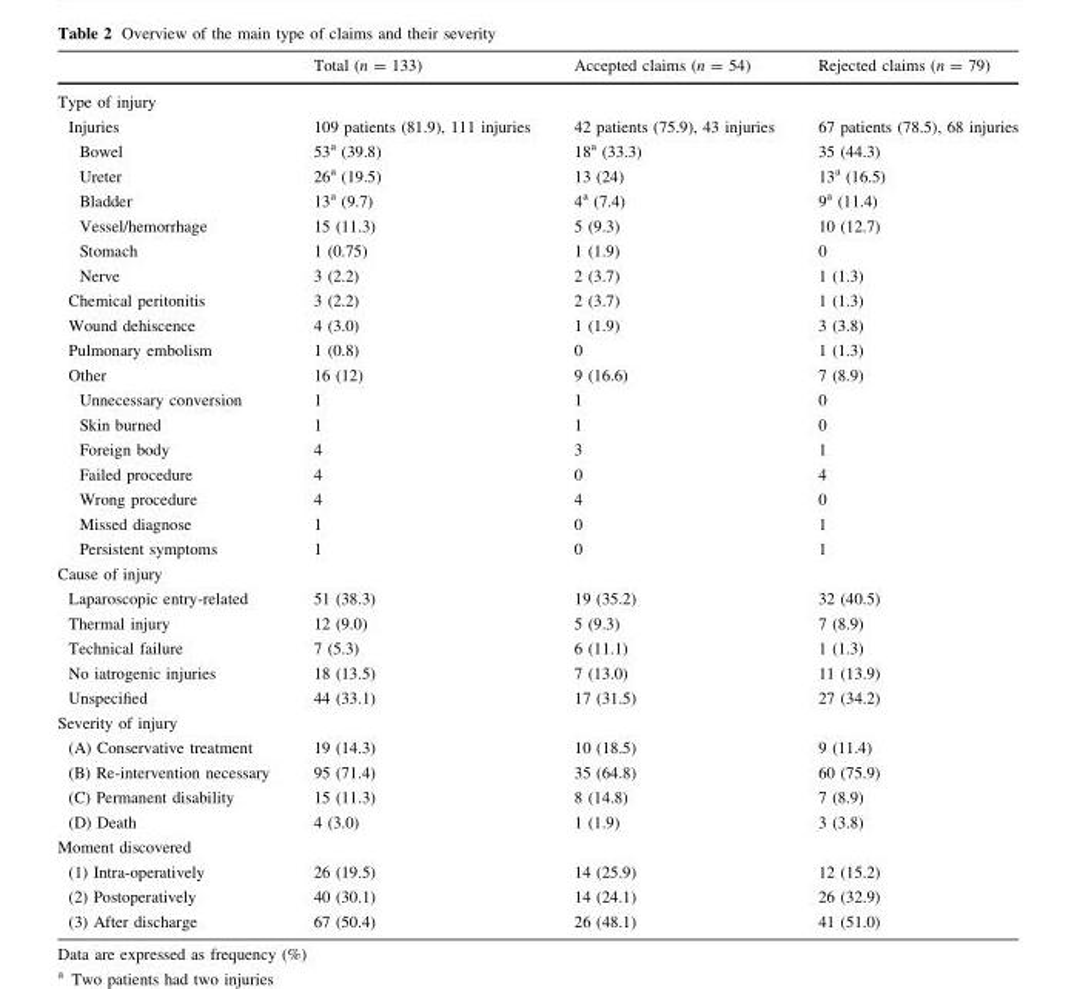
<table><thead><tr><td></td><td>Total (n = 133)</td><td>Accepted claims (n = 54)</td><td>Rejected claims (n = 79)</td></tr></thead><tbody><tr><td colspan="4">Type of injury</td></tr><tr><td>Injuries</td><td>109 patients (81.9), 111 injuries</td><td>42 patients (75.9), 43 injuries</td><td>67 patients (78.5), 68 injuries</td></tr><tr><td>Bowel</td><td>53<sup>a</sup> (39.8)</td><td>18<sup>a</sup> (33.3)</td><td>35 (44.3)</td></tr><tr><td>Ureter</td><td>26<sup>a</sup> (19.5)</td><td>13 (24)</td><td>13<sup>a</sup> (16.5)</td></tr><tr><td>Bladder</td><td>13<sup>a</sup> (9.7)</td><td>4<sup>a</sup> (7.4)</td><td>9<sup>a</sup> (11.4)</td></tr><tr><td>Vessel/hemorrhage</td><td>15 (11.3)</td><td>5 (9.3)</td><td>10 (12.7)</td></tr><tr><td>Stomach</td><td>1 (0.75)</td><td>1 (1.9)</td><td>0</td></tr><tr><td>Nerve</td><td>3 (2.2)</td><td>2 (3.7)</td><td>1 (1.3)</td></tr><tr><td>Chemical peritonitis</td><td>3 (2.2)</td><td>2 (3.7)</td><td>1 (1.3)</td></tr><tr><td>Wound dehiscence</td><td>4 (3.0)</td><td>1 (1.9)</td><td>3 (3.8)</td></tr><tr><td>Pulmonary embolism</td><td>1 (0.8)</td><td>0</td><td>1 (1.3)</td></tr><tr><td>Other</td><td>16 (12)</td><td>9 (16.6)</td><td>7 (8.9)</td></tr><tr><td>Unnecessary conversion</td><td>1</td><td>1</td><td>0</td></tr><tr><td>Skin burned</td><td>1</td><td>1</td><td>0</td></tr><tr><td>Foreign body</td><td>4</td><td>3</td><td>1</td></tr><tr><td>Failed procedure</td><td>4</td><td>0</td><td>4</td></tr><tr><td>Wrong procedure</td><td>4</td><td>4</td><td>0</td></tr><tr><td>Missed diagnose</td><td>1</td><td>0</td><td>1</td></tr><tr><td>Persistent symptoms</td><td>1</td><td>0</td><td>1</td></tr><tr><td colspan="4">Cause of injury</td></tr><tr><td>Laparoscopic entry-related</td><td>51 (38.3)</td><td>19 (35.2)</td><td>32 (40.5)</td></tr><tr><td>Thermal injury</td><td>12 (9.0)</td><td>5 (9.3)</td><td>7 (8.9)</td></tr><tr><td>Technical failure</td><td>7 (5.3)</td><td>6 (11.1)</td><td>1 (1.3)</td></tr><tr><td>No iatrogenic injuries</td><td>18 (13.5)</td><td>7 (13.0)</td><td>11 (13.9)</td></tr><tr><td>Unspecified</td><td>44 (33.1)</td><td>17 (31.5)</td><td>27 (34.2)</td></tr><tr><td colspan="4">Severity of injury</td></tr><tr><td>(A) Conservative treatment</td><td>19 (14.3)</td><td>10 (18.5)</td><td>9 (11.4)</td></tr><tr><td>(B) Re-intervention necessary</td><td>95 (71.4)</td><td>35 (64.8)</td><td>60 (75.9)</td></tr><tr><td>(C) Permanent disability</td><td>15 (11.3)</td><td>8 (14.8)</td><td>7 (8.9)</td></tr><tr><td>(D) Death</td><td>4 (3.0)</td><td>1 (1.9)</td><td>3 (3.8)</td></tr><tr><td colspan="4">Moment discovered</td></tr><tr><td>(1) Intra-operatively</td><td>26 (19.5)</td><td>14 (25.9)</td><td>12 (15.2)</td></tr><tr><td>(2) Postoperatively</td><td>40 (30.1)</td><td>14 (24.1)</td><td>26 (32.9)</td></tr><tr><td>(3) After discharge</td><td>67 (50.4)</td><td>26 (48.1)</td><td>41 (51.0)</td></tr></tbody></table>